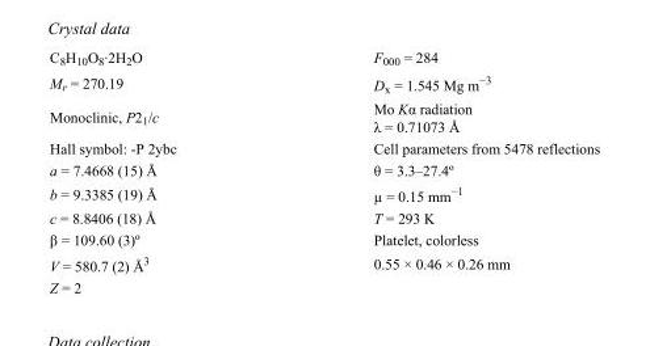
<table><tbody><tr><td>C<sub>8</sub>H<sub>10</sub>O<sub>8</sub>·2H<sub>2</sub>O</td><td>F000 = 284</td></tr><tr><td>M<sub>r</sub> = 270.19</td><td>D<sub>x</sub> = 1.545 Mg m<sup>−3</sup></td></tr><tr><td>Monoclinic, P2<sub>1</sub>/c</td><td>Mo Kα radiation λ = 0.71073 Å</td></tr><tr><td>Hall symbol: -P 2ybc</td><td>Cell parameters from 5478 reflections</td></tr><tr><td>a = 7.4668 (15) Å</td><td>θ = 3.3–27.4º</td></tr><tr><td>b = 9.3385 (19) Å</td><td>µ = 0.15 mm<sup>−1</sup></td></tr><tr><td>c = 8.8406 (18) Å</td><td>T = 293 K</td></tr><tr><td>β = 109.60 (3)º</td><td>Platelet, colorless</td></tr><tr><td>V = 580.7 (2) Å<sup>3</sup></td><td>0.55 × 0.46 × 0.26 mm</td></tr><tr><td>Z = 2</td><td></td></tr></tbody></table>